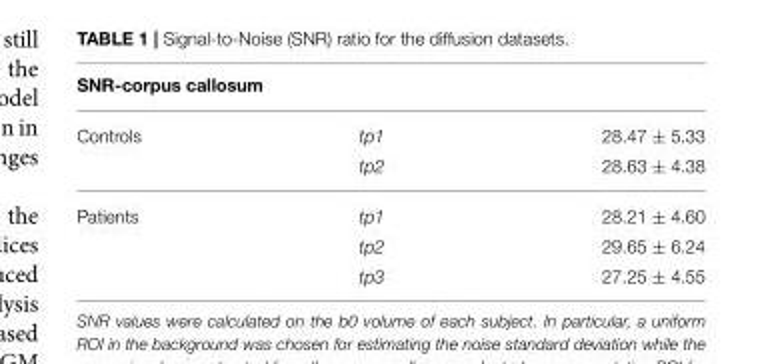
<table><thead><tr><td colspan="3">SNR-corpus callosum</td></tr><tr><td>Controls</td><td>tp1</td><td>28.47 ± 5.33</td></tr></thead><tbody><tr><td></td><td>tp2</td><td>28.63 ± 4.38</td></tr><tr><td rowspan="3">Patients</td><td>tp1</td><td>28.21 ± 4.60</td></tr><tr><td>tp2</td><td>29.65 ± 6.24</td></tr><tr><td>tp3</td><td>27.25 ± 4.55</td></tr></tbody></table>